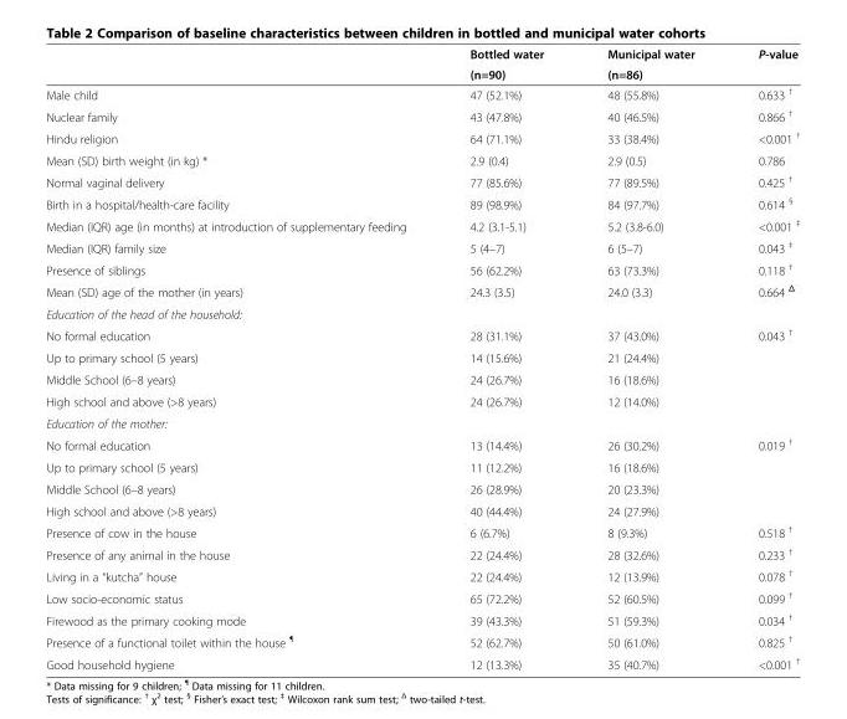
<table><thead><tr><td rowspan="2"></td><td rowspan="2">Bottled water (n=90)</td><td rowspan="2">Municipal water (n=86)</td><td rowspan="2">P-value</td></tr><tr></tr></thead><tbody><tr><td>Male child</td><td>47 (52.1%)</td><td>48 (55.8%)</td><td>0.633 <sup>†</sup></td></tr><tr><td>Nuclear family</td><td>43 (47.8%)</td><td>40 (46.5%)</td><td>0.866 <sup>†</sup></td></tr><tr><td>Hindu religion</td><td>64 (71.1%)</td><td>33 (38.4%)</td><td>&lt;0.001 <sup>†</sup></td></tr><tr><td>Mean (SD) birth weight (in kg) *</td><td>2.9 (0.4)</td><td>2.9 (0.5)</td><td>0.786</td></tr><tr><td>Normal vaginal delivery</td><td>77 (85.6%)</td><td>77 (89.5%)</td><td>0.425 <sup>†</sup></td></tr><tr><td>Birth in a hospital/health-care facility</td><td>89 (98.9%)</td><td>84 (97.7%)</td><td>0.614 <sup>§</sup></td></tr><tr><td>Median (IQR) age (in months) at introduction of supplementary feeding</td><td>4.2 (3.1-5.1)</td><td>5.2 (3.8-6.0)</td><td>&lt;0.001 <sup>‡</sup></td></tr><tr><td>Median (IQR) family size</td><td>5 (4–7)</td><td>6 (5–7)</td><td>0.043 <sup>‡</sup></td></tr><tr><td>Presence of siblings</td><td>56 (62.2%)</td><td>63 (73.3%)</td><td>0.118 <sup>†</sup></td></tr><tr><td>Mean (SD) age of the mother (in years)</td><td>24.3 (3.5)</td><td>24.0 (3.3)</td><td>0.664 <sup>Δ</sup></td></tr><tr><td colspan="4">Education of the head of the household:</td></tr><tr><td>No formal education</td><td>28 (31.1%)</td><td>37 (43.0%)</td><td>0.043 <sup>†</sup></td></tr><tr><td>Up to primary school (5 years)</td><td>14 (15.6%)</td><td>21 (24.4%)</td><td></td></tr><tr><td>Middle School (6–8 years)</td><td>24 (26.7%)</td><td>16 (18.6%)</td><td></td></tr><tr><td>High school and above (&gt;8 years)</td><td>24 (26.7%)</td><td>12 (14.0%)</td><td></td></tr><tr><td colspan="4">Education of the mother:</td></tr><tr><td>No formal education</td><td>13 (14.4%)</td><td>26 (30.2%)</td><td>0.019 <sup>†</sup></td></tr><tr><td>Up to primary school (5 years)</td><td>11 (12.2%)</td><td>16 (18.6%)</td><td></td></tr><tr><td>Middle School (6–8 years)</td><td>26 (28.9%)</td><td>20 (23.3%)</td><td></td></tr><tr><td>High school and above (&gt;8 years)</td><td>40 (44.4%)</td><td>24 (27.9%)</td><td></td></tr><tr><td>Presence of cow in the house</td><td>6 (6.7%)</td><td>8 (9.3%)</td><td>0.518 <sup>†</sup></td></tr><tr><td>Presence of any animal in the house</td><td>22 (24.4%)</td><td>28 (32.6%)</td><td>0.233 <sup>†</sup></td></tr><tr><td>Living in a “kutcha” house</td><td>22 (24.4%)</td><td>12 (13.9%)</td><td>0.078 <sup>†</sup></td></tr><tr><td>Low socio-economic status</td><td>65 (72.2%)</td><td>52 (60.5%)</td><td>0.099 <sup>†</sup></td></tr><tr><td>Firewood as the primary cooking mode</td><td>39 (43.3%)</td><td>51 (59.3%)</td><td>0.034 <sup>†</sup></td></tr><tr><td>Presence of a functional toilet within the house <sup>¶</sup></td><td>52 (62.7%)</td><td>50 (61.0%)</td><td>0.825 <sup>†</sup></td></tr><tr><td>Good household hygiene</td><td>12 (13.3%)</td><td>35 (40.7%)</td><td>&lt;0.001 <sup>†</sup></td></tr></tbody></table>